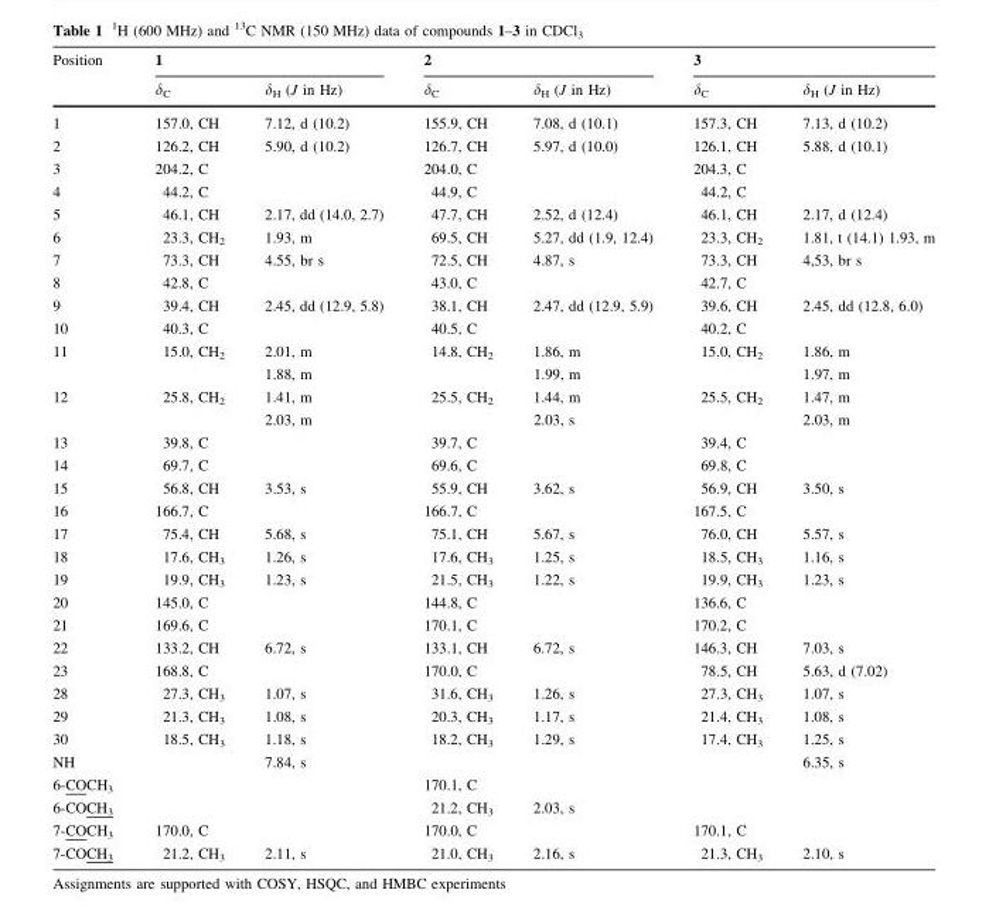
<table><thead><tr><td rowspan="2">Position</td><td colspan="2">1</td><td colspan="2">2</td><td colspan="2">3</td></tr><tr><td>δ<sub>C</sub></td><td>δ<sub>H</sub> (J in Hz)</td><td>δ<sub>C</sub></td><td>δ<sub>H</sub> (J in Hz)</td><td>δ<sub>C</sub></td><td>δ<sub>H</sub> (J in Hz)</td></tr></thead><tbody><tr><td>1</td><td>157.0, CH</td><td>7.12, d (10.2)</td><td>155.9, CH</td><td>7.08, d (10.1)</td><td>157.3, CH</td><td>7.13, d (10.2)</td></tr><tr><td>2</td><td>126.2, CH</td><td>5.90, d (10.2)</td><td>126.7, CH</td><td>5.97, d (10.0)</td><td>126.1, CH</td><td>5.88, d (10.1)</td></tr><tr><td>3</td><td>204.2, C</td><td></td><td>204.0, C</td><td></td><td>204.3, C</td><td></td></tr><tr><td>4</td><td>44.2, C</td><td></td><td>44.9, C</td><td></td><td>44.2, C</td><td></td></tr><tr><td>5</td><td>46.1, CH</td><td>2.17, dd (14.0, 2.7)</td><td>47.7, CH</td><td>2.52, d (12.4)</td><td>46.1, CH</td><td>2.17, d (12.4)</td></tr><tr><td>6</td><td>23.3, CH<sub>2</sub></td><td>1.93, m</td><td>69.5, CH</td><td>5.27, dd (1.9, 12.4)</td><td>23.3, CH<sub>2</sub></td><td>1.81, t (14.1) 1.93, m</td></tr><tr><td>7</td><td>73.3, CH</td><td>4.55, br s</td><td>72.5, CH</td><td>4.87, s</td><td>73.3, CH</td><td>4,53, br s</td></tr><tr><td>8</td><td>42.8, C</td><td></td><td>43.0, C</td><td></td><td>42.7, C</td><td></td></tr><tr><td>9</td><td>39.4, CH</td><td>2.45, dd (12.9, 5.8)</td><td>38.1, CH</td><td>2.47, dd (12.9, 5.9)</td><td>39.6, CH</td><td>2.45, dd (12.8, 6.0)</td></tr><tr><td>10</td><td>40.3, C</td><td></td><td>40.5, C</td><td></td><td>40.2, C</td><td></td></tr><tr><td>11</td><td>15.0, CH<sub>2</sub></td><td>2.01, m 1.88, m</td><td>14.8, CH<sub>2</sub></td><td>1.86, m 1.99, m</td><td>15.0, CH<sub>2</sub></td><td>1.86, m 1.97, m</td></tr><tr><td>12</td><td>25.8, CH<sub>2</sub></td><td>1.41, m 2.03, m</td><td>25.5, CH<sub>2</sub></td><td>1.44, m 2.03, s</td><td>25.5, CH<sub>2</sub></td><td>1.47, m 2.03, m</td></tr><tr><td>13</td><td>39.8, C</td><td></td><td>39.7, C</td><td></td><td>39.4, C</td><td></td></tr><tr><td>14</td><td>69.7, C</td><td></td><td>69.6, C</td><td></td><td>69.8, C</td><td></td></tr><tr><td>15</td><td>56.8, CH</td><td>3.53, s</td><td>55.9, CH</td><td>3.62, s</td><td>56.9, CH</td><td>3.50, s</td></tr><tr><td>16</td><td>166.7, C</td><td></td><td>166.7, C</td><td></td><td>167.5, C</td><td></td></tr><tr><td>17</td><td>75.4, CH</td><td>5.68, s</td><td>75.1, CH</td><td>5.67, s</td><td>76.0, CH</td><td>5.57, s</td></tr><tr><td>18</td><td>17.6, CH<sub>3</sub></td><td>1.26, s</td><td>17.6, CH<sub>3</sub></td><td>1.25, s</td><td>18.5, CH<sub>3</sub></td><td>1.16, s</td></tr><tr><td>19</td><td>19.9, CH<sub>3</sub></td><td>1.23, s</td><td>21.5, CH<sub>3</sub></td><td>1.22, s</td><td>19.9, CH<sub>3</sub></td><td>1.23, s</td></tr><tr><td>20</td><td>145.0, C</td><td></td><td>144.8, C</td><td></td><td>136.6, C</td><td></td></tr><tr><td>21</td><td>169.6, C</td><td></td><td>170.1, C</td><td></td><td>170.2, C</td><td></td></tr><tr><td>22</td><td>133.2, CH</td><td>6.72, s</td><td>133.1, CH</td><td>6.72, s</td><td>146.3, CH</td><td>7.03, s</td></tr><tr><td>23</td><td>168.8, C</td><td></td><td>170.0, C</td><td></td><td>78.5, CH</td><td>5.63, d (7.02)</td></tr><tr><td>28</td><td>27.3, CH<sub>3</sub></td><td>1.07, s</td><td>31.6, CH<sub>3</sub></td><td>1.26, s</td><td>27.3, CH<sub>3</sub></td><td>1.07, s</td></tr><tr><td>29</td><td>21.3, CH<sub>3</sub></td><td>1.08, s</td><td>20.3, CH<sub>3</sub></td><td>1.17, s</td><td>21.4, CH<sub>3</sub></td><td>1.08, s</td></tr><tr><td>30</td><td>18.5, CH<sub>3</sub></td><td>1.18, s</td><td>18.2, CH<sub>3</sub></td><td>1.29, s</td><td>17.4, CH<sub>3</sub></td><td>1.25, s</td></tr><tr><td>NH</td><td></td><td>7.84, s</td><td></td><td></td><td></td><td>6.35, s</td></tr><tr><td>6-COCH<sub>3</sub></td><td></td><td></td><td>170.1, C</td><td></td><td></td><td></td></tr><tr><td>6-COCH<sub>3</sub></td><td></td><td></td><td>21.2, CH<sub>3</sub></td><td>2.03, s</td><td></td><td></td></tr><tr><td>7-COCH<sub>3</sub></td><td>170.0, C</td><td></td><td>170.0, C</td><td></td><td>170.1, C</td><td></td></tr><tr><td>7-COCH<sub>3</sub></td><td>21.2, CH<sub>3</sub></td><td>2.11, s</td><td>21.0, CH<sub>3</sub></td><td>2.16, s</td><td>21.3, CH<sub>3</sub></td><td>2.10, s</td></tr></tbody></table>